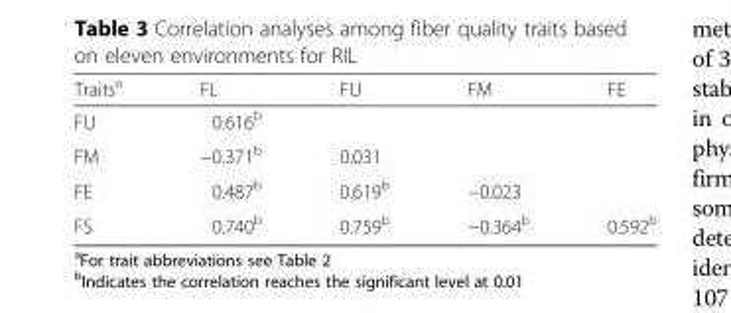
<table><thead><tr><td>Traits<sup>a</sup></td><td>FL</td><td>FU</td><td>FM</td><td>FE</td></tr></thead><tbody><tr><td>FU</td><td>0.616<sup>b</sup></td><td></td><td></td><td></td></tr><tr><td>FM</td><td>−0.371<sup>b</sup></td><td>0.031</td><td></td><td></td></tr><tr><td>FE</td><td>0.487<sup>b</sup></td><td>0.619<sup>b</sup></td><td>−0.023</td><td></td></tr><tr><td>FS</td><td>0.740<sup>b</sup></td><td>0.759<sup>b</sup></td><td>−0.364<sup>b</sup></td><td>0.592<sup>b</sup></td></tr></tbody></table>